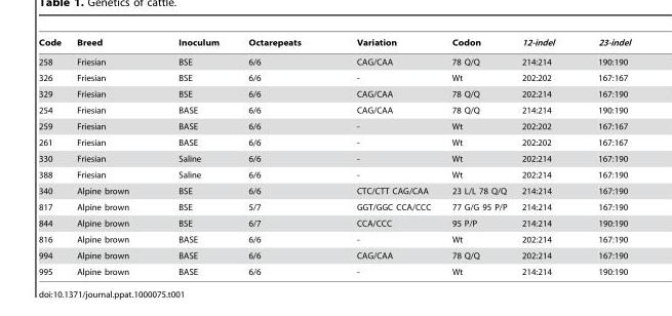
<table><thead><tr><td>Code</td><td>Breed</td><td>Inoculum</td><td>Octarepeats</td><td>Variation</td><td>Codon</td><td>12-indel</td><td>23-indel</td></tr></thead><tbody><tr><td>258</td><td>Friesian</td><td>BSE</td><td>6/6</td><td>CAG/CAA</td><td>78 Q/Q</td><td>214:214</td><td>190:190</td></tr><tr><td>326</td><td>Friesian</td><td>BSE</td><td>6/6</td><td>-</td><td>Wt</td><td>202:202</td><td>167:167</td></tr><tr><td>329</td><td>Friesian</td><td>BSE</td><td>6/6</td><td>CAG/CAA</td><td>78 Q/Q</td><td>202:214</td><td>167:190</td></tr><tr><td>254</td><td>Friesian</td><td>BASE</td><td>6/6</td><td>CAG/CAA</td><td>78 Q/Q</td><td>214:214</td><td>190:190</td></tr><tr><td>259</td><td>Friesian</td><td>BASE</td><td>6/6</td><td>-</td><td>Wt</td><td>202:202</td><td>167:167</td></tr><tr><td>261</td><td>Friesian</td><td>BASE</td><td>6/6</td><td>-</td><td>Wt</td><td>202:202</td><td>167:167</td></tr><tr><td>330</td><td>Friesian</td><td>Saline</td><td>6/6</td><td>-</td><td>Wt</td><td>202:214</td><td>167:190</td></tr><tr><td>388</td><td>Friesian</td><td>Saline</td><td>6/6</td><td>-</td><td>Wt</td><td>202:214</td><td>167:190</td></tr><tr><td>340</td><td>Alpine brown</td><td>BSE</td><td>6/6</td><td>CTC/CTT CAG/CAA</td><td>23 L/L 78 Q/Q</td><td>214:214</td><td>167:190</td></tr><tr><td>817</td><td>Alpine brown</td><td>BSE</td><td>5/7</td><td>GGT/GGC CCA/CCC</td><td>77 G/G 95 P/P</td><td>214:214</td><td>167:190</td></tr><tr><td>844</td><td>Alpine brown</td><td>BSE</td><td>6/7</td><td>CCA/CCC</td><td>95 P/P</td><td>214:214</td><td>190:190</td></tr><tr><td>816</td><td>Alpine brown</td><td>BASE</td><td>6/6</td><td>-</td><td>Wt</td><td>202:214</td><td>167:190</td></tr><tr><td>994</td><td>Alpine brown</td><td>BASE</td><td>6/6</td><td>CAG/CAA</td><td>78 Q/Q</td><td>202:214</td><td>167:190</td></tr><tr><td>995</td><td>Alpine brown</td><td>BASE</td><td>6/6</td><td>-</td><td>Wt</td><td>214:214</td><td>190:190</td></tr></tbody></table>